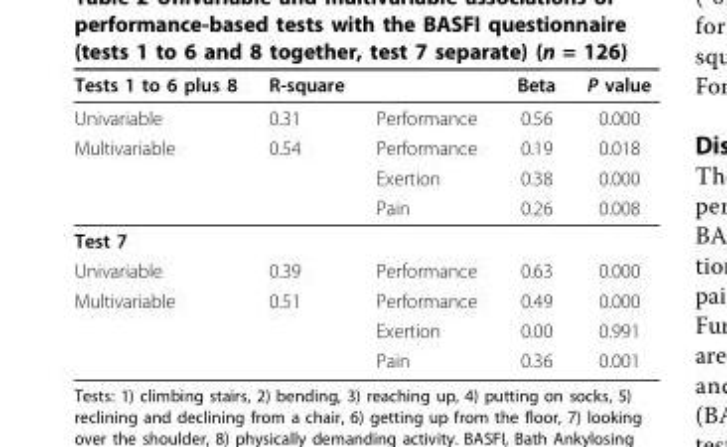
<table><thead><tr><td>Tests 1 to 6 plus 8</td><td>R-square</td><td></td><td>Beta</td><td>P value</td></tr></thead><tbody><tr><td>Univariable</td><td>0.31</td><td>Performance</td><td>0.56</td><td>0.000</td></tr><tr><td rowspan="3">Multivariable</td><td>0.54</td><td>Performance</td><td>0.19</td><td>0.018</td></tr><tr><td></td><td>Exertion</td><td>0.38</td><td>0.000</td></tr><tr><td></td><td>Pain</td><td>0.26</td><td>0.008</td></tr><tr><td colspan="5">Test 7</td></tr><tr><td>Univariable</td><td>0.39</td><td>Performance</td><td>0.63</td><td>0.000</td></tr><tr><td rowspan="3">Multivariable</td><td>0.51</td><td>Performance</td><td>0.49</td><td>0.000</td></tr><tr><td></td><td>Exertion</td><td>0.00</td><td>0.991</td></tr><tr><td></td><td>Pain</td><td>0.36</td><td>0.001</td></tr></tbody></table>